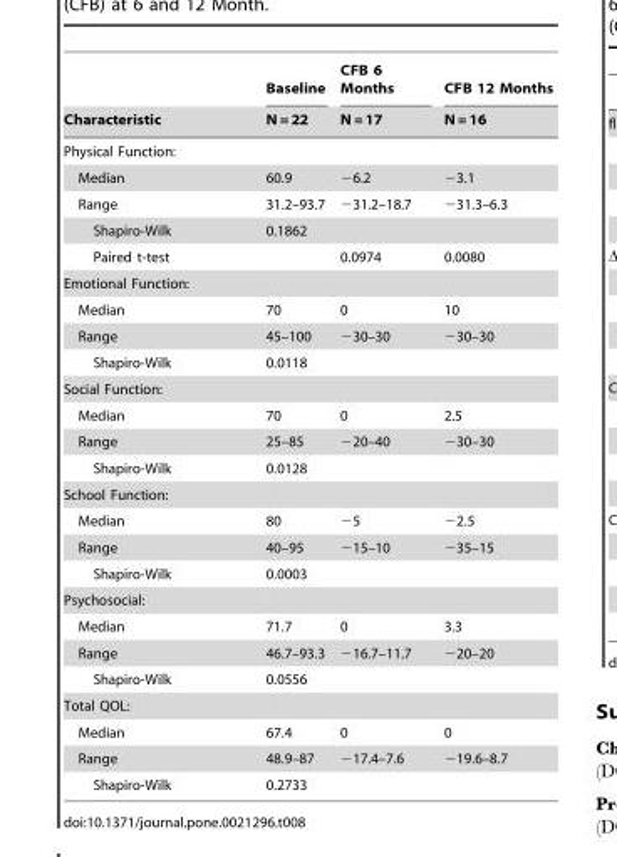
<table><thead><tr><td rowspan="2">Characteristic</td><td rowspan="2">Baseline N = 22</td><td rowspan="2">CFB 6 Months N = 17</td><td rowspan="2">CFB 12 Months N = 16</td></tr><tr></tr></thead><tbody><tr><td colspan="4">Physical Function:</td></tr><tr><td>Median</td><td>60.9</td><td>−6.2</td><td>−3.1</td></tr><tr><td>Range</td><td>31.2–93.7</td><td>−31.2–18.7</td><td>−31.3–6.3</td></tr><tr><td>Shapiro-Wilk</td><td>0.1862</td><td></td><td></td></tr><tr><td>Paired t-test</td><td></td><td>0.0974</td><td>0.0080</td></tr><tr><td colspan="4">Emotional Function:</td></tr><tr><td>Median</td><td>70</td><td>0</td><td>10</td></tr><tr><td>Range</td><td>45–100</td><td>−30–30</td><td>−30–30</td></tr><tr><td>Shapiro-Wilk</td><td>0.0118</td><td></td><td></td></tr><tr><td colspan="4">Social Function:</td></tr><tr><td>Median</td><td>70</td><td>0</td><td>2.5</td></tr><tr><td>Range</td><td>25–85</td><td>−20–40</td><td>−30–30</td></tr><tr><td>Shapiro-Wilk</td><td>0.0128</td><td></td><td></td></tr><tr><td colspan="4">School Function:</td></tr><tr><td>Median</td><td>80</td><td>−5</td><td>−2.5</td></tr><tr><td>Range</td><td>40–95</td><td>−15–10</td><td>−35–15</td></tr><tr><td>Shapiro-Wilk</td><td>0.0003</td><td></td><td></td></tr><tr><td colspan="4">Psychosocial:</td></tr><tr><td>Median</td><td>71.7</td><td>0</td><td>3.3</td></tr><tr><td>Range</td><td>46.7–93.3</td><td>−16.7–11.7</td><td>−20–20</td></tr><tr><td>Shapiro-Wilk</td><td>0.0556</td><td></td><td></td></tr><tr><td colspan="4">Total QOL:</td></tr><tr><td>Median</td><td>67.4</td><td>0</td><td>0</td></tr><tr><td>Range</td><td>48.9–87</td><td>−17.4–7.6</td><td>−19.6–8.7</td></tr><tr><td>Shapiro-Wilk</td><td>0.2733</td><td></td><td></td></tr></tbody></table>